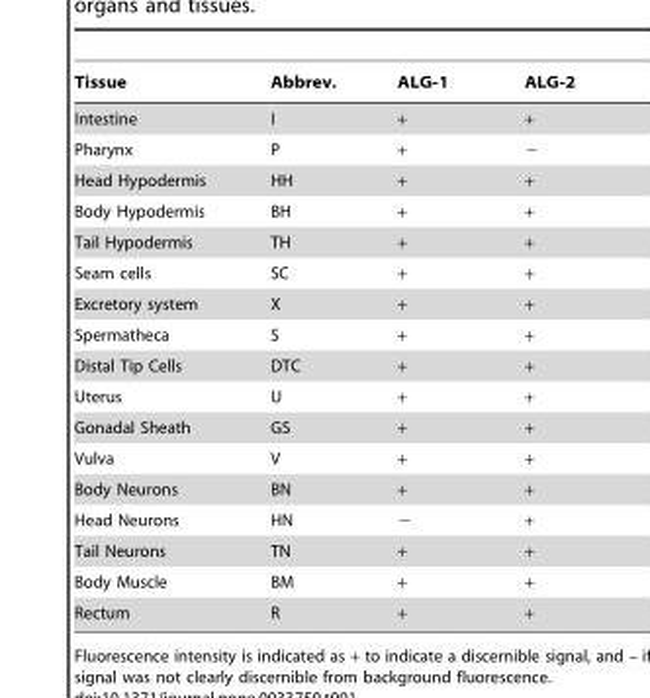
<table><thead><tr><td>Tissue</td><td>Abbrev.</td><td>ALG-1</td><td>ALG-2</td></tr></thead><tbody><tr><td>Intestine</td><td>I</td><td>+</td><td>+</td></tr><tr><td>Pharynx</td><td>P</td><td>+</td><td>−</td></tr><tr><td>Head Hypodermis</td><td>HH</td><td>+</td><td>+</td></tr><tr><td>Body Hypodermis</td><td>BH</td><td>+</td><td>+</td></tr><tr><td>Tail Hypodermis</td><td>TH</td><td>+</td><td>+</td></tr><tr><td>Seam cells</td><td>SC</td><td>+</td><td>+</td></tr><tr><td>Excretory system</td><td>X</td><td>+</td><td>+</td></tr><tr><td>Spermatheca</td><td>S</td><td>+</td><td>+</td></tr><tr><td>Distal Tip Cells</td><td>DTC</td><td>+</td><td>+</td></tr><tr><td>Uterus</td><td>U</td><td>+</td><td>+</td></tr><tr><td>Gonadal Sheath</td><td>GS</td><td>+</td><td>+</td></tr><tr><td>Vulva</td><td>V</td><td>+</td><td>+</td></tr><tr><td>Body Neurons</td><td>BN</td><td>+</td><td>+</td></tr><tr><td>Head Neurons</td><td>HN</td><td>−</td><td>+</td></tr><tr><td>Tail Neurons</td><td>TN</td><td>+</td><td>+</td></tr><tr><td>Body Muscle</td><td>BM</td><td>+</td><td>+</td></tr><tr><td>Rectum</td><td>R</td><td>+</td><td>+</td></tr></tbody></table>